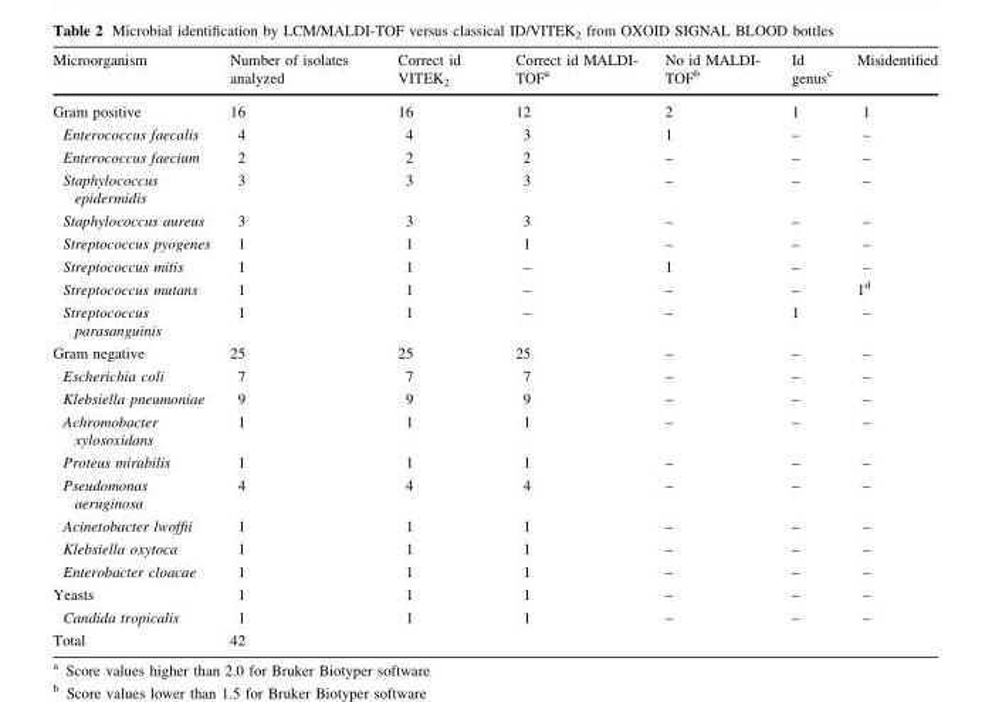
<table><thead><tr><td>Microorganism</td><td>Number of isolates analyzed</td><td>Correct id VITEK<sub>2</sub></td><td>Correct id MALDI- TOF<sup>a</sup></td><td>No id MALDI- TOF<sup>b</sup></td><td>Id genus<sup>c</sup></td><td>Misidentified</td></tr></thead><tbody><tr><td>Gram positive</td><td>16</td><td>16</td><td>12</td><td>2</td><td>1</td><td>1</td></tr><tr><td>Enterococcus faecalis</td><td>4</td><td>4</td><td>3</td><td>1</td><td>–</td><td>–</td></tr><tr><td>Enterococcus faecium</td><td>2</td><td>2</td><td>2</td><td>–</td><td>–</td><td>–</td></tr><tr><td>Staphylococcus epidermidis</td><td>3</td><td>3</td><td>3</td><td>–</td><td>–</td><td>–</td></tr><tr><td>Staphylococcus aureus</td><td>3</td><td>3</td><td>3</td><td>–</td><td>–</td><td>–</td></tr><tr><td>Streptococcus pyogenes</td><td>1</td><td>1</td><td>1</td><td>–</td><td>–</td><td>–</td></tr><tr><td>Streptococcus mitis</td><td>1</td><td>1</td><td>–</td><td>1</td><td>–</td><td>–</td></tr><tr><td>Streptococcus mutans</td><td>1</td><td>1</td><td>–</td><td>–</td><td>–</td><td>1<sup>d</sup></td></tr><tr><td>Streptococcus parasanguinis</td><td>1</td><td>1</td><td>–</td><td>–</td><td>1</td><td>–</td></tr><tr><td>Gram negative</td><td>25</td><td>25</td><td>25</td><td>–</td><td>–</td><td>–</td></tr><tr><td>Escherichia coli</td><td>7</td><td>7</td><td>7</td><td>–</td><td>–</td><td>–</td></tr><tr><td>Klebsiella pneumoniae</td><td>9</td><td>9</td><td>9</td><td>–</td><td>–</td><td>–</td></tr><tr><td>Achromobacter xylosoxidans</td><td>1</td><td>1</td><td>1</td><td>–</td><td>–</td><td>–</td></tr><tr><td>Proteus mirabilis</td><td>1</td><td>1</td><td>1</td><td>–</td><td>–</td><td>–</td></tr><tr><td>Pseudomonas aeruginosa</td><td>4</td><td>4</td><td>4</td><td>–</td><td>–</td><td>–</td></tr><tr><td>Acinetobacter lwoffii</td><td>1</td><td>1</td><td>1</td><td>–</td><td>–</td><td>–</td></tr><tr><td>Klebsiella oxytoca</td><td>1</td><td>1</td><td>1</td><td>–</td><td>–</td><td>–</td></tr><tr><td>Enterobacter cloacae</td><td>1</td><td>1</td><td>1</td><td>–</td><td>–</td><td>–</td></tr><tr><td>Yeasts</td><td>1</td><td>1</td><td>1</td><td>–</td><td>–</td><td>–</td></tr><tr><td>Candida tropicalis</td><td>1</td><td>1</td><td>1</td><td>–</td><td>–</td><td>–</td></tr><tr><td>Total</td><td>42</td><td></td><td></td><td></td><td></td><td></td></tr></tbody></table>